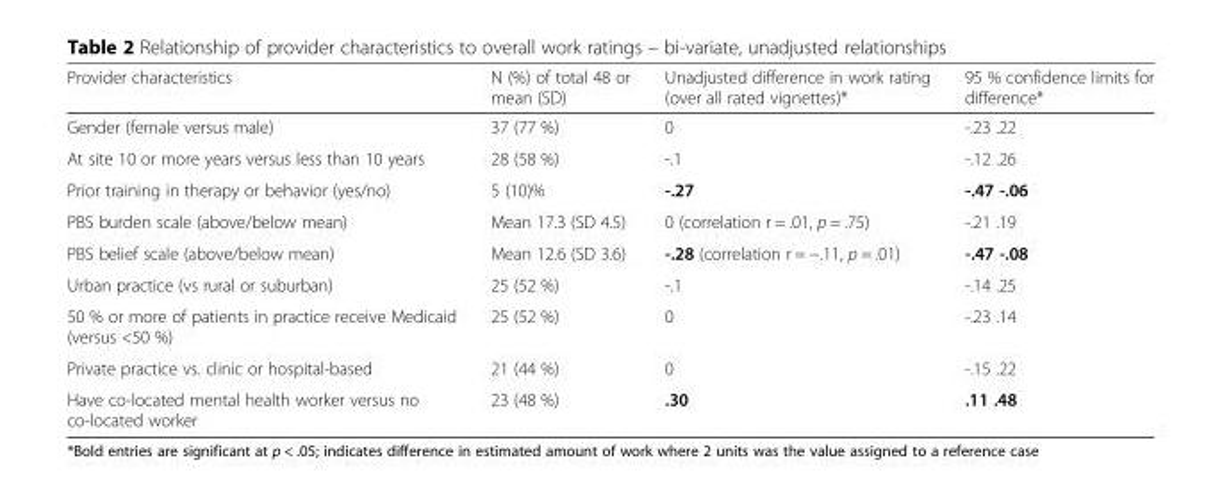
<table><thead><tr><td>Provider characteristics</td><td>N (%) of total 48 or mean (SD)</td><td>Unadjusted difference in work rating (over all rated vignettes)*</td><td>95 % confidence limits for difference*</td></tr></thead><tbody><tr><td>Gender (female versus male)</td><td>37 (77 %)</td><td>0</td><td>-.23 .22</td></tr><tr><td>At site 10 or more years versus less than 10 years</td><td>28 (58 %)</td><td>-.1</td><td>-.12 .26</td></tr><tr><td>Prior training in therapy or behavior (yes/no)</td><td>5 (10)%</td><td>-.27</td><td>-.47 -.06</td></tr><tr><td>PBS burden scale (above/below mean)</td><td>Mean 17.3 (SD 4.5)</td><td>0 (correlation r = .01, p = .75)</td><td>-.21 .19</td></tr><tr><td>PBS belief scale (above/below mean)</td><td>Mean 12.6 (SD 3.6)</td><td>-.28 (correlation r = −.11, p = .01)</td><td>-.47 -.08</td></tr><tr><td>Urban practice (vs rural or suburban)</td><td>25 (52 %)</td><td>-.1</td><td>-.14 .25</td></tr><tr><td>50 % or more of patients in practice receive Medicaid (versus &lt;50 %)</td><td>25 (52 %)</td><td>0</td><td>-.23 .14</td></tr><tr><td>Private practice vs. clinic or hospital-based</td><td>21 (44 %)</td><td>0</td><td>-.15 .22</td></tr><tr><td>Have co-located mental health worker versus no co-located worker</td><td>23 (48 %)</td><td>.30</td><td>.11 .48</td></tr></tbody></table>